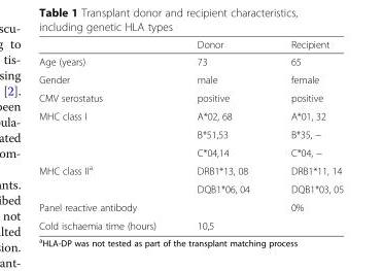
<table><thead><tr><td></td><td>Donor</td><td>Recipient</td></tr></thead><tbody><tr><td>Age (years)</td><td>73</td><td>65</td></tr><tr><td>Gender</td><td>male</td><td>female</td></tr><tr><td>CMV serostatus</td><td>positive</td><td>positive</td></tr><tr><td rowspan="3">MHC class I</td><td>A*02, 68</td><td>A*01, 32</td></tr><tr><td>B*51,53</td><td>B*35, −</td></tr><tr><td>C*04,14</td><td>C*04, −</td></tr><tr><td rowspan="2">MHC class II<sup>a</sup></td><td>DRB1*13, 08</td><td>DRB1*11, 14</td></tr><tr><td>DQB1*06, 04</td><td>DQB1*03, 05</td></tr><tr><td>Panel reactive antibody</td><td></td><td>0%</td></tr><tr><td>Cold ischaemia time (hours)</td><td colspan="2">10,5</td></tr></tbody></table>